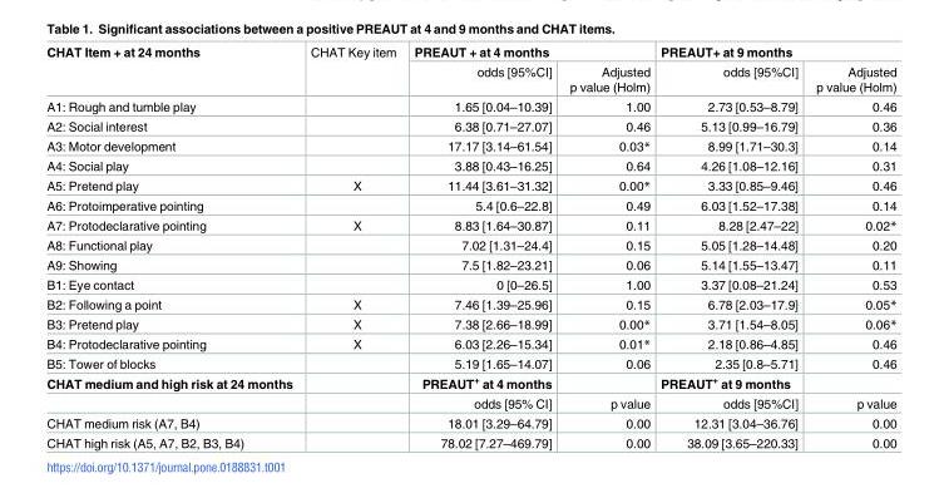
<table><tbody><tr><td rowspan="2">CHAT Item + at 24 months</td><td rowspan="2">CHAT Key item</td><td colspan="2">PREAUT + at 4 months</td><td colspan="2">PREAUT+ at 9 months</td></tr><tr><td>odds [95%CI]</td><td>Adjusted p value (Holm)</td><td>odds [95%CI]</td><td>Adjusted p value (Holm)</td></tr><tr><td>A1: Rough and tumble play</td><td></td><td>1.65 [0.04–10.39]</td><td>1.00</td><td>2.73 [0.53–8.79]</td><td>0.46</td></tr><tr><td>A2: Social interest</td><td></td><td>6.38 [0.71–27.07]</td><td>0.46</td><td>5.13 [0.99–16.79]</td><td>0.36</td></tr><tr><td>A3: Motor development</td><td></td><td>17.17 [3.14–61.54]</td><td>0.03*</td><td>8.99 [1.71–30.3]</td><td>0.14</td></tr><tr><td>A4: Social play</td><td></td><td>3.88 [0.43–16.25]</td><td>0.64</td><td>4.26 [1.08–12.16]</td><td>0.31</td></tr><tr><td>A5: Pretend play</td><td>X</td><td>11.44 [3.61–31.32]</td><td>0.00*</td><td>3.33 [0.85–9.46]</td><td>0.46</td></tr><tr><td>A6: Protoimperative pointing</td><td></td><td>5.4 [0.6–22.8]</td><td>0.49</td><td>6.03 [1.52–17.38]</td><td>0.14</td></tr><tr><td>A7: Protodeclarative pointing</td><td>X</td><td>8.83 [1.64–30.87]</td><td>0.11</td><td>8.28 [2.47–22]</td><td>0.02*</td></tr><tr><td>A8: Functional play</td><td></td><td>7.02 [1.31–24.4]</td><td>0.15</td><td>5.05 [1.28–14.48]</td><td>0.20</td></tr><tr><td>A9: Showing</td><td></td><td>7.5 [1.82–23.21]</td><td>0.06</td><td>5.14 [1.55–13.47]</td><td>0.11</td></tr><tr><td>B1: Eye contact</td><td></td><td>0 [0–26.5]</td><td>1.00</td><td>3.37 [0.08–21.24]</td><td>0.53</td></tr><tr><td>B2: Following a point</td><td>X</td><td>7.46 [1.39–25.96]</td><td>0.15</td><td>6.78 [2.03–17.9]</td><td>0.05*</td></tr><tr><td>B3: Pretend play</td><td>X</td><td>7.38 [2.66–18.99]</td><td>0.00*</td><td>3.71 [1.54–8.05]</td><td>0.06*</td></tr><tr><td>B4: Protodeclarative pointing</td><td>X</td><td>6.03 [2.26–15.34]</td><td>0.01*</td><td>2.18 [0.86–4.85]</td><td>0.46</td></tr><tr><td>B5: Tower of blocks</td><td></td><td>5.19 [1.65–14.07]</td><td>0.06</td><td>2.35 [0.8–5.71]</td><td>0.46</td></tr><tr><td rowspan="2">CHAT medium and high risk at 24 months</td><td></td><td>PREAUT<sup>+</sup> at 4 months</td><td></td><td>PREAUT<sup>+</sup> at 9 months</td><td></td></tr><tr><td></td><td>odds [95% CI]</td><td>p value</td><td>odds [95%CI]</td><td>p value</td></tr><tr><td>CHAT medium risk (A7, B4)</td><td></td><td>18.01 [3.29–64.79]</td><td>0.00</td><td>12.31 [3.04–36.76]</td><td>0.00</td></tr><tr><td>CHAT high risk (A5, A7, B2, B3, B4)</td><td></td><td>78.02 [7.27–469.79]</td><td>0.00</td><td>38.09 [3.65–220.33]</td><td>0.00</td></tr></tbody></table>